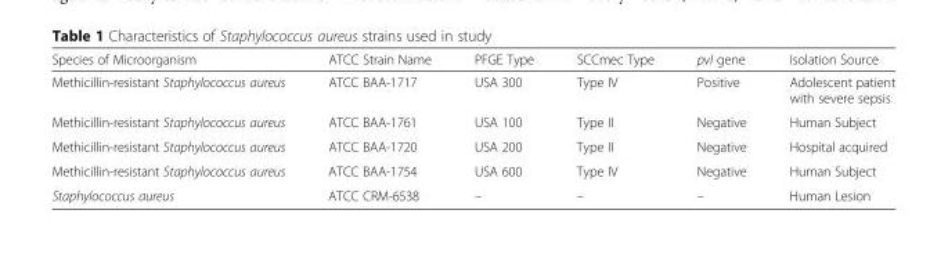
<table><thead><tr><td>Species of Microorganism</td><td>ATCC Strain Name</td><td>PFGE Type</td><td>SCCmec Type</td><td>pvl gene</td><td>Isolation Source</td></tr></thead><tbody><tr><td>Methicillin-resistant Staphylococcus aureus</td><td>ATCC BAA-1717</td><td>USA 300</td><td>Type IV</td><td>Positive</td><td>Adolescent patient with severe sepsis</td></tr><tr><td>Methicillin-resistant Staphylococcus aureus</td><td>ATCC BAA-1761</td><td>USA 100</td><td>Type II</td><td>Negative</td><td>Human Subject</td></tr><tr><td>Methicillin-resistant Staphylococcus aureus</td><td>ATCC BAA-1720</td><td>USA 200</td><td>Type II</td><td>Negative</td><td>Hospital acquired</td></tr><tr><td>Methicillin-resistant Staphylococcus aureus</td><td>ATCC BAA-1754</td><td>USA 600</td><td>Type IV</td><td>Negative</td><td>Human Subject</td></tr><tr><td>Staphylococcus aureus</td><td>ATCC CRM-6538</td><td>–</td><td>–</td><td>–</td><td>Human Lesion</td></tr></tbody></table>